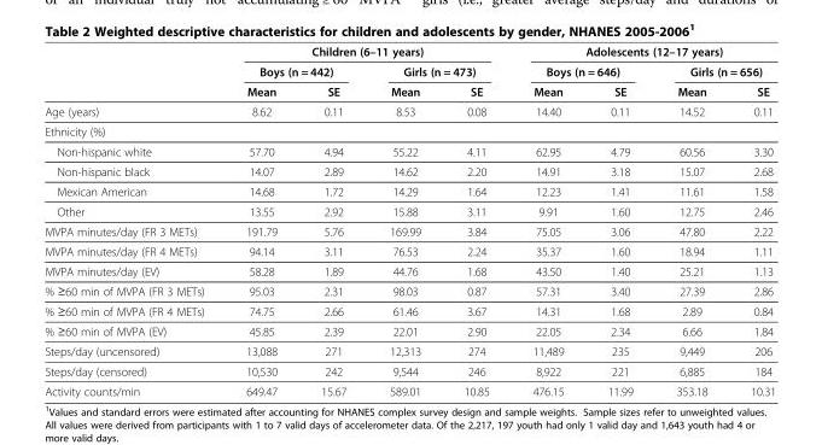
<table><thead><tr><td rowspan="3"></td><td colspan="4">Children (6–11 years)</td><td colspan="4">Adolescents (12–17 years)</td></tr><tr><td colspan="2">Boys (n = 442)</td><td colspan="2">Girls (n = 473)</td><td colspan="2">Boys (n = 646)</td><td colspan="2">Girls (n = 656)</td></tr><tr><td>Mean</td><td>SE</td><td>Mean</td><td>SE</td><td>Mean</td><td>SE</td><td>Mean</td><td>SE</td></tr></thead><tbody><tr><td>Age (years)</td><td>8.62</td><td>0.11</td><td>8.53</td><td>0.08</td><td>14.40</td><td>0.11</td><td>14.52</td><td>0.11</td></tr><tr><td colspan="9">Ethnicity (%)</td></tr><tr><td>Non-hispanic white</td><td>57.70</td><td>4.94</td><td>55.22</td><td>4.11</td><td>62.95</td><td>4.79</td><td>60.56</td><td>3.30</td></tr><tr><td>Non-hispanic black</td><td>14.07</td><td>2.89</td><td>14.62</td><td>2.20</td><td>14.91</td><td>3.18</td><td>15.07</td><td>2.68</td></tr><tr><td>Mexican American</td><td>14.68</td><td>1.72</td><td>14.29</td><td>1.64</td><td>12.23</td><td>1.41</td><td>11.61</td><td>1.58</td></tr><tr><td>Other</td><td>13.55</td><td>2.92</td><td>15.88</td><td>3.11</td><td>9.91</td><td>1.60</td><td>12.75</td><td>2.46</td></tr><tr><td>MVPA minutes/day (FR 3 METs)</td><td>191.79</td><td>5.76</td><td>169.99</td><td>3.84</td><td>75.05</td><td>3.06</td><td>47.80</td><td>2.22</td></tr><tr><td>MVPA minutes/day (FR 4 METs)</td><td>94.14</td><td>3.11</td><td>76.53</td><td>2.24</td><td>35.37</td><td>1.60</td><td>18.94</td><td>1.11</td></tr><tr><td>MVPA minutes/day (EV)</td><td>58.28</td><td>1.89</td><td>44.76</td><td>1.68</td><td>43.50</td><td>1.40</td><td>25.21</td><td>1.13</td></tr><tr><td>% ≥60 min of MVPA (FR 3 METs)</td><td>95.03</td><td>2.31</td><td>98.03</td><td>0.87</td><td>57.31</td><td>3.40</td><td>27.39</td><td>2.86</td></tr><tr><td>% ≥60 min of MVPA (FR 4 METs)</td><td>74.75</td><td>2.66</td><td>61.46</td><td>3.67</td><td>14.31</td><td>1.68</td><td>2.89</td><td>0.84</td></tr><tr><td>% ≥60 min of MVPA (EV)</td><td>45.85</td><td>2.39</td><td>22.01</td><td>2.90</td><td>22.05</td><td>2.34</td><td>6.66</td><td>1.84</td></tr><tr><td>Steps/day (uncensored)</td><td>13,088</td><td>271</td><td>12,313</td><td>274</td><td>11,489</td><td>235</td><td>9,449</td><td>206</td></tr><tr><td>Steps/day (censored)</td><td>10,530</td><td>242</td><td>9,544</td><td>246</td><td>8,922</td><td>221</td><td>6,885</td><td>184</td></tr><tr><td>Activity counts/min</td><td>649.47</td><td>15.67</td><td>589.01</td><td>10.85</td><td>476.15</td><td>11.99</td><td>353.18</td><td>10.31</td></tr></tbody></table>